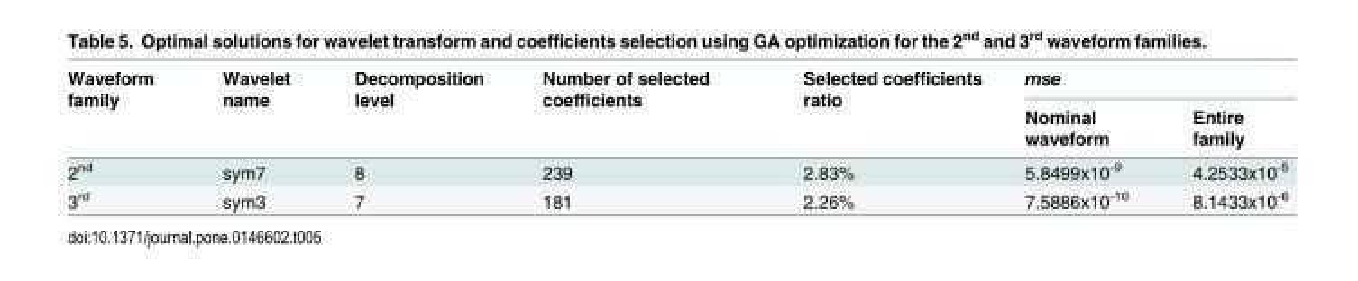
<table><thead><tr><td rowspan="2">Waveform family</td><td rowspan="2">Wavelet name</td><td rowspan="2">Decomposition level</td><td rowspan="2">Number of selected coefficients</td><td rowspan="2">Selected coefficients ratio</td><td colspan="2">mse</td></tr><tr><td>Nominal waveform</td><td>Entire family</td></tr></thead><tbody><tr><td>2<sup>nd</sup></td><td>sym7</td><td>8</td><td>239</td><td>2.83%</td><td>5.8499x10<sup>-9</sup></td><td>4.2533x10<sup>-5</sup></td></tr><tr><td>3<sup>rd</sup></td><td>sym3</td><td>7</td><td>181</td><td>2.26%</td><td>7.5886x10<sup>-10</sup></td><td>8.1433x10<sup>-6</sup></td></tr></tbody></table>